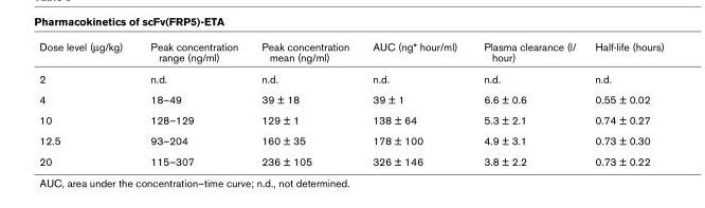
<table><thead><tr><td>Dose level (µg/kg)</td><td>Peak concentration range (ng/ml)</td><td>Peak concentration mean (ng/ml)</td><td>AUC (ng* hour/ml)</td><td>Plasma clearance (l/ hour)</td><td>Half-life (hours)</td></tr></thead><tbody><tr><td>2</td><td>n.d.</td><td>n.d.</td><td>n.d.</td><td>n.d.</td><td>n.d.</td></tr><tr><td>4</td><td>18–49</td><td>39 ± 18</td><td>39 ± 1</td><td>6.6 ± 0.6</td><td>0.55 ± 0.02</td></tr><tr><td>10</td><td>128–129</td><td>129 ± 1</td><td>138 ± 64</td><td>5.3 ± 2.1</td><td>0.74 ± 0.27</td></tr><tr><td>12.5</td><td>93–204</td><td>160 ± 35</td><td>178 ± 100</td><td>4.9 ± 3.1</td><td>0.73 ± 0.30</td></tr><tr><td>20</td><td>115–307</td><td>236 ± 105</td><td>326 ± 146</td><td>3.8 ± 2.2</td><td>0.73 ± 0.22</td></tr></tbody></table>